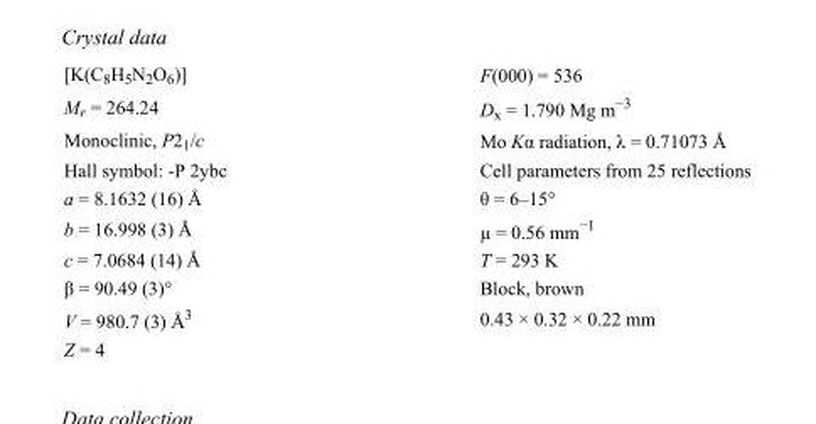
<table><tbody><tr><td>[K(C<sub>8</sub>H<sub>5</sub>N<sub>2</sub>O<sub>6</sub>)]</td><td>F(000) = 536</td></tr><tr><td>M<sub>r</sub> = 264.24</td><td>D<sub>x</sub> = 1.790 Mg m<sup>−3</sup></td></tr><tr><td>Monoclinic, P2<sub>1</sub>/c</td><td>Mo Kα radiation, λ = 0.71073 Å</td></tr><tr><td>Hall symbol: -P 2ybc</td><td>Cell parameters from 25 reflections</td></tr><tr><td>a = 8.1632 (16) Å</td><td>θ = 6–15°</td></tr><tr><td>b = 16.998 (3) Å</td><td>µ = 0.56 mm<sup>−1</sup></td></tr><tr><td>c = 7.0684 (14) Å</td><td>T = 293 K</td></tr><tr><td>β = 90.49 (3)°</td><td>Block, brown</td></tr><tr><td>V = 980.7 (3) Å<sup>3</sup></td><td>0.43 × 0.32 × 0.22 mm</td></tr><tr><td>Z = 4</td><td></td></tr></tbody></table>